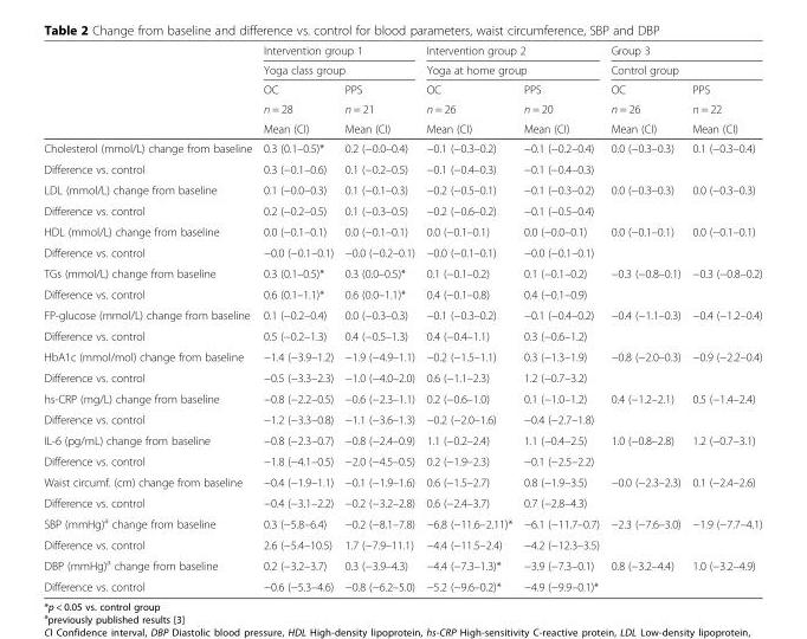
<table><thead><tr><td rowspan="5"></td><td rowspan="2" colspan="2">Intervention group 1 Yoga class group</td><td rowspan="2" colspan="2">Intervention group 2 Yoga at home group</td><td rowspan="2" colspan="2">Group 3 Control group</td></tr><tr></tr><tr><td rowspan="3">OC n = 28 Mean (CI)</td><td rowspan="3">PPS n = 21 Mean (CI)</td><td rowspan="3">OC n = 26 Mean (CI)</td><td rowspan="3">PPS n = 20 Mean (CI)</td><td rowspan="3">OC n = 26 Mean (CI)</td><td rowspan="3">PPS n = 22 Mean (CI)</td></tr><tr></tr><tr></tr></thead><tbody><tr><td>Cholesterol (mmol/L) change from baseline</td><td>0.3 (0.1–0.5)*</td><td>0.2 (−0.0–0.4)</td><td>−0.1 (−0.3–0.2)</td><td>−0.1 (−0.2–0.4)</td><td>0.0 (−0.3–0.3)</td><td>0.1 (−0.3–0.4)</td></tr><tr><td>Difference vs. control</td><td>0.3 (−0.1–0.6)</td><td>0.1 (−0.2–0.5)</td><td>−0.1 (−0.4–0.3)</td><td>−0.1 (−0.4–0.3)</td><td></td><td></td></tr><tr><td>LDL (mmol/L) change from baseline</td><td>0.1 (−0.0–0.3)</td><td>0.1 (−0.1–0.3)</td><td>−0.2 (−0.5–0.1)</td><td>−0.1 (−0.3–0.2)</td><td>0.0 (−0.3–0.3)</td><td>0.0 (−0.3–0.3)</td></tr><tr><td>Difference vs. control</td><td>0.2 (−0.2–0.5)</td><td>0.1 (−0.3–0.5)</td><td>−0.2 (−0.6–0.2)</td><td>−0.1 (−0.5–0.4)</td><td></td><td></td></tr><tr><td>HDL (mmol/L) change from baseline</td><td>0.0 (−0.1–0.1)</td><td>0.0 (−0.1–0.1)</td><td>0.0 (−0.1–0.1)</td><td>0.0 (−0.0–0.1)</td><td>0.0 (−0.1–0.1)</td><td>0.0 (−0.1–0.1)</td></tr><tr><td>Difference vs. control</td><td>−0.0 (−0.1–0.1)</td><td>−0.0 (−0.2–0.1)</td><td>−0.0 (−0.1–0.1)</td><td>−0.0 (−0.1–0.1)</td><td></td><td></td></tr><tr><td>TGs (mmol/L) change from baseline</td><td>0.3 (0.1–0.5)*</td><td>0.3 (0.0–0.5)*</td><td>0.1 (−0.1–0.2)</td><td>0.1 (−0.1–0.2)</td><td>−0.3 (−0.8–0.1)</td><td>−0.3 (−0.8–0.2)</td></tr><tr><td>Difference vs. control</td><td>0.6 (0.1–1.1)*</td><td>0.6 (0.0–1.1)*</td><td>0.4 (−0.1–0.8)</td><td>0.4 (−0.1–0.9)</td><td></td><td></td></tr><tr><td>FP-glucose (mmol/L) change from baseline</td><td>0.1 (−0.2–0.4)</td><td>0.0 (−0.3–0.3)</td><td>−0.1 (−0.3–0.2)</td><td>−0.1 (−0.4–0.2)</td><td>−0.4 (−1.1–0.3)</td><td>−0.4 (−1.2–0.4)</td></tr><tr><td>Difference vs. control</td><td>0.5 (−0.2–1.3)</td><td>0.4 (−0.5–1.3)</td><td>0.4 (−0.4–1.1)</td><td>0.3 (−0.6–1.2)</td><td></td><td></td></tr><tr><td>HbA1c (mmol/mol) change from baseline</td><td>−1.4 (−3.9–1.2)</td><td>−1.9 (−4.9–1.1)</td><td>−0.2 (−1.5–1.1)</td><td>0.3 (−1.3–1.9)</td><td>−0.8 (−2.0–0.3)</td><td>−0.9 (−2.2–0.4)</td></tr><tr><td>Difference vs. control</td><td>−0.5 (−3.3–2.3)</td><td>−1.0 (−4.0–2.0)</td><td>0.6 (−1.1–2.3)</td><td>1.2 (−0.7–3.2)</td><td></td><td></td></tr><tr><td>hs-CRP (mg/L) change from baseline</td><td>−0.8 (−2.2–0.5)</td><td>−0.6 (−2.3–1.1)</td><td>0.2 (−0.6–1.0)</td><td>0.1 (−1.0–1.2)</td><td>0.4 (−1.2–2.1)</td><td>0.5 (−1.4–2.4)</td></tr><tr><td>Difference vs. control</td><td>−1.2 (−3.3–0.8)</td><td>−1.1 (−3.6–1.3)</td><td>−0.2 (−2.0–1.6)</td><td>−0.4 (−2.7–1.8)</td><td></td><td></td></tr><tr><td>IL-6 (pg/mL) change from baseline</td><td>−0.8 (−2.3–0.7)</td><td>−0.8 (−2.4–0.9)</td><td>1.1 (−0.2–2.4)</td><td>1.1 (−0.4–2.5)</td><td>1.0 (−0.8–2.8)</td><td>1.2 (−0.7–3.1)</td></tr><tr><td>Difference vs. control</td><td>−1.8 (−4.1–0.5)</td><td>−2.0 (−4.5–0.5)</td><td>0.2 (−1.9–2.3)</td><td>−0.1 (−2.5–2.2)</td><td></td><td></td></tr><tr><td>Waist circumf. (cm) change from baseline</td><td>−0.4 (−1.9–1.1)</td><td>−0.1 (−1.9–1.6)</td><td>0.6 (−1.5–2.7)</td><td>0.8 (−1.9–3.5)</td><td>−0.0 (−2.3–2.3)</td><td>0.1 (−2.4–2.6)</td></tr><tr><td>Difference vs. control</td><td>−0.4 (−3.1–2.2)</td><td>−0.2 (−3.2–2.8)</td><td>0.6 (−2.4–3.7)</td><td>0.7 (−2.8–4.3)</td><td></td><td></td></tr><tr><td>SBP (mmHg)<sup>a</sup> change from baseline</td><td>0.3 (−5.8–6.4)</td><td>−0.2 (−8.1–7.8)</td><td>−6.8 (−11.6–2.11)*</td><td>−6.1 (−11.7–0.7)</td><td>−2.3 (−7.6–3.0)</td><td>−1.9 (−7.7–4.1)</td></tr><tr><td>Difference vs. control</td><td>2.6 (−5.4–10.5)</td><td>1.7 (−7.9–11.1)</td><td>−4.4 (−11.5–2.4)</td><td>−4.2 (−12.3–3.5)</td><td></td><td></td></tr><tr><td>DBP (mmHg)<sup>a</sup> change from baseline</td><td>0.2 (−3.2–3.7)</td><td>0.3 (−3.9–4.3)</td><td>−4.4 (−7.3–1.3)*</td><td>−3.9 (−7.3–0.1)</td><td>0.8 (−3.2–4.4)</td><td>1.0 (−3.2–4.9)</td></tr><tr><td>Difference vs. control</td><td>−0.6 (−5.3–4.6)</td><td>−0.8 (−6.2–5.0)</td><td>−5.2 (−9.6–0.2)*</td><td>−4.9 (−9.9–0.1)*</td><td></td><td></td></tr></tbody></table>